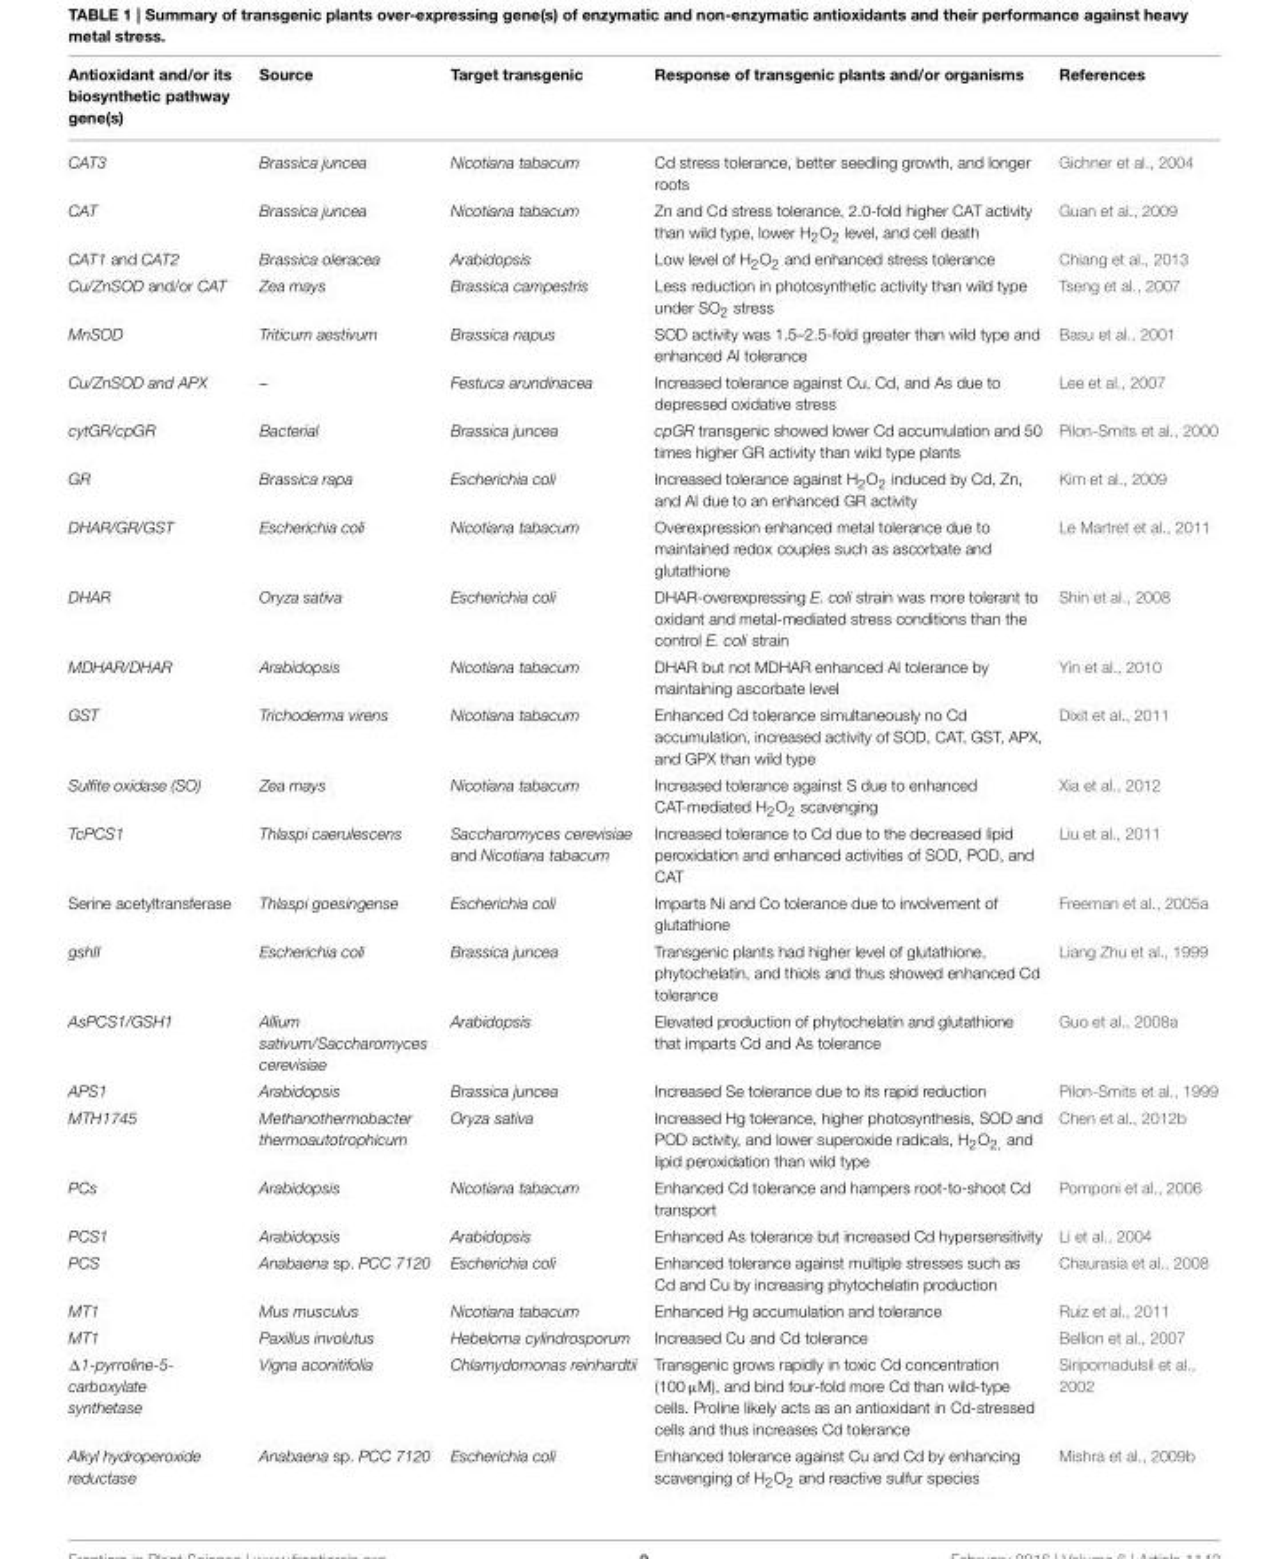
<table><thead><tr><td>Antioxidant and/or its biosynthetic pathway gene(s)</td><td>Source</td><td>Target transgenic</td><td>Response of transgenic plants and/or organisms</td><td>References</td></tr></thead><tbody><tr><td>CAT3</td><td>Brassica juncea</td><td>Nicotiana tabacum</td><td>Cd stress tolerance, better seedling growth, and longer roots</td><td>Gichner et al., 2004</td></tr><tr><td>CAT</td><td>Brassica juncea</td><td>Nicotiana tabacum</td><td>Zn and Cd stress tolerance, 2.0-fold higher CAT activity than wild type, lower H<sub>2</sub>O<sub>2</sub> level, and cell death</td><td>Guan et al., 2009</td></tr><tr><td>CAT1 and CAT2</td><td>Brassica oleracea</td><td>Arabidopsis</td><td>Low level of H<sub>2</sub>O<sub>2</sub> and enhanced stress tolerance</td><td>Chiang et al., 2013</td></tr><tr><td>Cu/ZnSOD and/or CAT</td><td>Zea mays</td><td>Brassica campestris</td><td>Less reduction in photosynthetic activity than wild type under SO<sub>2</sub> stress</td><td>Tseng et al., 2007</td></tr><tr><td>MnSOD</td><td>Triticum aestivum</td><td>Brassica napus</td><td>SOD activity was 1.5–2.5-fold greater than wild type and enhanced Al tolerance</td><td>Basu et al., 2001</td></tr><tr><td>Cu/ZnSOD and APX</td><td>–</td><td>Festuca arundinacea</td><td>Increased tolerance against Cu, Cd, and As due to depressed oxidative stress</td><td>Lee et al., 2007</td></tr><tr><td>cytGR/cpGR</td><td>Bacterial</td><td>Brassica juncea</td><td>cpGR transgenic showed lower Cd accumulation and 50 times higher GR activity than wild type plants</td><td>Pilon-Smits et al., 2000</td></tr><tr><td>GR</td><td>Brassica rapa</td><td>Escherichia coli</td><td>Increased tolerance against H<sub>2</sub>O<sub>2</sub> induced by Cd, Zn, and Al due to an enhanced GR activity</td><td>Kim et al., 2009</td></tr><tr><td>DHAR/GR/GST</td><td>Escherichia coli</td><td>Nicotiana tabacum</td><td>Overexpression enhanced metal tolerance due to maintained redox couples such as ascorbate and glutathione</td><td>Le Martret et al., 2011</td></tr><tr><td>DHAR</td><td>Oryza sativa</td><td>Escherichia coli</td><td>DHAR-overexpressing E. coli strain was more tolerant to oxidant and metal-mediated stress conditions than the control E. coli strain</td><td>Shin et al., 2008</td></tr><tr><td>MDHAR/DHAR</td><td>Arabidopsis</td><td>Nicotiana tabacum</td><td>DHAR but not MDHAR enhanced Al tolerance by maintaining ascorbate level</td><td>Yin et al., 2010</td></tr><tr><td>GST</td><td>Trichoderma virens</td><td>Nicotiana tabacum</td><td>Enhanced Cd tolerance simultaneously no Cd accumulation, increased activity of SOD, CAT, GST, APX, and GPX than wild type</td><td>Dixit et al., 2011</td></tr><tr><td>Sulfite oxidase (SO)</td><td>Zea mays</td><td>Nicotiana tabacum</td><td>Increased tolerance against S due to enhanced CAT-mediated H<sub>2</sub>O<sub>2</sub> scavenging</td><td>Xia et al., 2012</td></tr><tr><td>TcPCS1</td><td>Thlaspi caerulescens</td><td>Saccharomyces cerevisiae and Nicotiana tabacum</td><td>Increased tolerance to Cd due to the decreased lipid peroxidation and enhanced activities of SOD, POD, and CAT</td><td>Liu et al., 2011</td></tr><tr><td>Serine acetyltransferase</td><td>Thlaspi goesingense</td><td>Escherichia coli</td><td>Imparts Ni and Co tolerance due to involvement of glutathione</td><td>Freeman et al., 2005a</td></tr><tr><td>gshII</td><td>Escherichia coli</td><td>Brassica juncea</td><td>Transgenic plants had higher level of glutathione, phytochelatin, and thiols and thus showed enhanced Cd tolerance</td><td>Liang Zhu et al., 1999</td></tr><tr><td>AsPCS1/GSH1</td><td>Allium sativum/Saccharomyces cerevisiae</td><td>Arabidopsis</td><td>Elevated production of phytochelatin and glutathione that imparts Cd and As tolerance</td><td>Guo et al., 2008a</td></tr><tr><td>APS1</td><td>Arabidopsis</td><td>Brassica juncea</td><td>Increased Se tolerance due to its rapid reduction</td><td>Pilon-Smits et al., 1999</td></tr><tr><td>MTH1745</td><td>Methanothermobacter thermoautotrophicum</td><td>Oryza sativa</td><td>Increased Hg tolerance, higher photosynthesis, SOD and POD activity, and lower superoxide radicals, H<sub>2</sub>O<sub>2</sub>, and lipid peroxidation than wild type</td><td>Chen et al., 2012b</td></tr><tr><td>PCs</td><td>Arabidopsis</td><td>Nicotiana tabacum</td><td>Enhanced Cd tolerance and hampers root-to-shoot Cd transport</td><td>Pomponi et al., 2006</td></tr><tr><td>PCS1</td><td>Arabidopsis</td><td>Arabidopsis</td><td>Enhanced As tolerance but increased Cd hypersensitivity</td><td>Li et al., 2004</td></tr><tr><td>PCS</td><td>Anabaena sp. PCC 7120</td><td>Escherichia coli</td><td>Enhanced tolerance against multiple stresses such as Cd and Cu by increasing phytochelatin production</td><td>Chaurasia et al., 2008</td></tr><tr><td>MT1</td><td>Mus musculus</td><td>Nicotiana tabacum</td><td>Enhanced Hg accumulation and tolerance</td><td>Ruiz et al., 2011</td></tr><tr><td>MT1</td><td>Paxillus involutus</td><td>Hebeloma cylindrosporum</td><td>Increased Cu and Cd tolerance</td><td>Bellion et al., 2007</td></tr><tr><td>Δ1-pyrroline-5- carboxylate synthetase</td><td>Vigna aconitifolia</td><td>Chlamydomonas reinhardtii</td><td>Transgenic grows rapidly in toxic Cd concentration (100 µM), and bind four-fold more Cd than wild-type cells. Proline likely acts as an antioxidant in Cd-stressed cells and thus increases Cd tolerance</td><td>Siripornadulsil et al., 2002</td></tr><tr><td>Alkyl hydroperoxide reductase</td><td>Anabaena sp. PCC 7120</td><td>Escherichia coli</td><td>Enhanced tolerance against Cu and Cd by enhancing scavenging of H<sub>2</sub>O<sub>2</sub> and reactive sulfur species</td><td>Mishra et al., 2009b</td></tr></tbody></table>